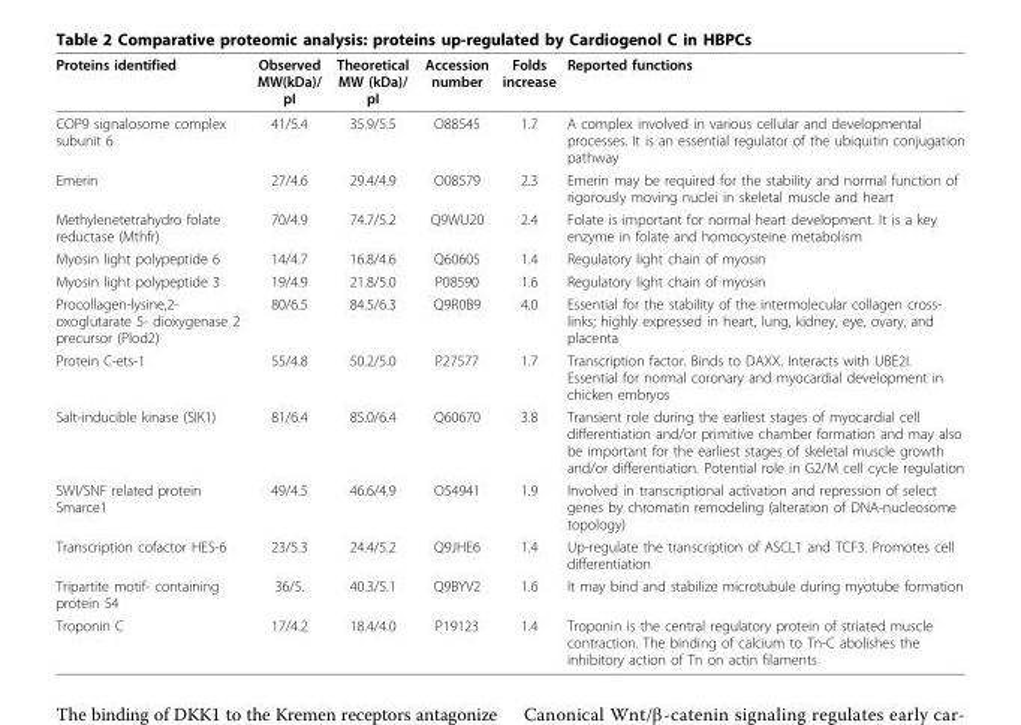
<table><thead><tr><td>Proteins identified</td><td>Observed MW(kDa)/ pI</td><td>Theoretical MW (kDa)/ pI</td><td>Accession number</td><td>Folds increase</td><td>Reported functions</td></tr></thead><tbody><tr><td>COP9 signalosome complex subunit 6</td><td>41/5.4</td><td>35.9/5.5</td><td>O88545</td><td>1.7</td><td>A complex involved in various cellular and developmental processes. It is an essential regulator of the ubiquitin conjugation pathway</td></tr><tr><td>Emerin</td><td>27/4.6</td><td>29.4/4.9</td><td>O08579</td><td>2.3</td><td>Emerin may be required for the stability and normal function of rigorously moving nuclei in skeletal muscle and heart</td></tr><tr><td>Methylenetetrahydro folate reductase (Mthfr)</td><td>70/4.9</td><td>74.7/5.2</td><td>Q9WU20</td><td>2.4</td><td>Folate is important for normal heart development. It is a key enzyme in folate and homocysteine metabolism</td></tr><tr><td>Myosin light polypeptide 6</td><td>14/4.7</td><td>16.8/4.6</td><td>Q60605</td><td>1.4</td><td>Regulatory light chain of myosin</td></tr><tr><td>Myosin light polypeptide 3</td><td>19/4.9</td><td>21.8/5.0</td><td>P08590</td><td>1.6</td><td>Regulatory light chain of myosin</td></tr><tr><td>Procollagen-lysine,2- oxoglutarate 5- dioxygenase 2 precursor (Plod2)</td><td>80/6.5</td><td>84.5/6.3</td><td>Q9R0B9</td><td>4.0</td><td>Essential for the stability of the intermolecular collagen cross- links; highly expressed in heart, lung, kidney, eye, ovary, and placenta</td></tr><tr><td>Protein C-ets-1</td><td>55/4.8</td><td>50.2/5.0</td><td>P27577</td><td>1.7</td><td>Transcription factor. Binds to DAXX. Interacts with UBE2I. Essential for normal coronary and myocardial development in chicken embryos</td></tr><tr><td>Salt-inducible kinase (SIK1)</td><td>81/6.4</td><td>85.0/6.4</td><td>Q60670</td><td>3.8</td><td>Transient role during the earliest stages of myocardial cell differentiation and/or primitive chamber formation and may also be important for the earliest stages of skeletal muscle growth and/or differentiation. Potential role in G2/M cell cycle regulation</td></tr><tr><td>SWI/SNF related protein Smarce1</td><td>49/4.5</td><td>46.6/4.9</td><td>O54941</td><td>1.9</td><td>Involved in transcriptional activation and repression of select genes by chromatin remodeling (alteration of DNA-nucleosome topology)</td></tr><tr><td>Transcription cofactor HES-6</td><td>23/5.3</td><td>24.4/5.2</td><td>Q9JHE6</td><td>1.4</td><td>Up-regulate the transcription of ASCL1 and TCF3. Promotes cell differentiation</td></tr><tr><td>Tripartite motif- containing protein 54</td><td>36/5.</td><td>40.3/5.1</td><td>Q9BYV2</td><td>1.6</td><td>It may bind and stabilize microtubule during myotube formation</td></tr><tr><td>Troponin C</td><td>17/4.2</td><td>18.4/4.0</td><td>P19123</td><td>1.4</td><td>Troponin is the central regulatory protein of striated muscle contraction. The binding of calcium to Tn-C abolishes the inhibitory action of Tn on actin filaments</td></tr></tbody></table>